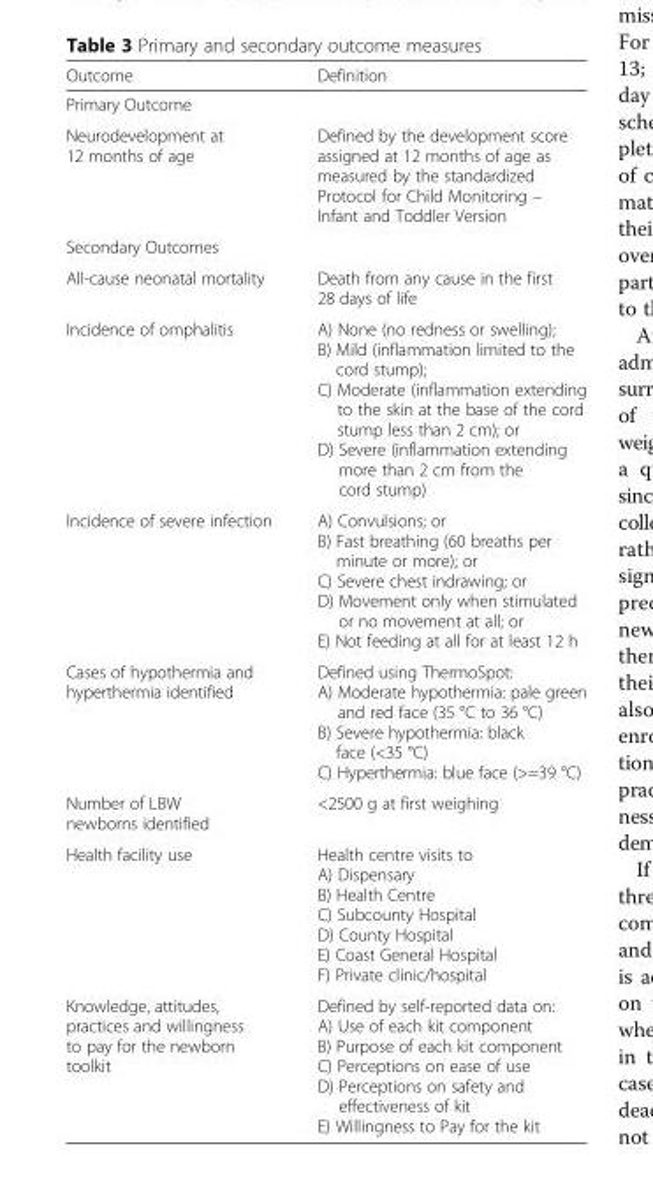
<table><thead><tr><td>Outcome</td><td>Definition</td></tr></thead><tbody><tr><td colspan="2">Primary Outcome</td></tr><tr><td>Neurodevelopment at 12 months of age</td><td>Defined by the development score assigned at 12 months of age as measured by the standardized Protocol for Child Monitoring – Infant and Toddler Version</td></tr><tr><td colspan="2">Secondary Outcomes</td></tr><tr><td>All-cause neonatal mortality</td><td>Death from any cause in the first 28 days of life</td></tr><tr><td>Incidence of omphalitis</td><td>A) None (no redness or swelling); B) Mild (inflammation limited to the cord stump); C) Moderate (inflammation extending to the skin at the base of the cord stump less than 2 cm); or D) Severe (inflammation extending more than 2 cm from the cord stump)</td></tr><tr><td>Incidence of severe infection</td><td>A) Convulsions; or B) Fast breathing (60 breaths per minute or more); or C) Severe chest indrawing; or D) Movement only when stimulated or no movement at all; or E) Not feeding at all for at least 12 h</td></tr><tr><td>Cases of hypothermia and hyperthermia identified</td><td>Defined using ThermoSpot: A) Moderate hypothermia: pale green and red face (35 °C to 36 °C) B) Severe hypothermia: black face (&lt;35 °C) C) Hyperthermia: blue face (&gt;=39 °C)</td></tr><tr><td>Number of LBW newborns identified</td><td>&lt;2500 g at first weighing</td></tr><tr><td>Health facility use</td><td>Health centre visits to A) Dispensary B) Health Centre C) Subcounty Hospital D) County Hospital E) Coast General Hospital F) Private clinic/hospital</td></tr><tr><td>Knowledge, attitudes, practices and willingness to pay for the newborn toolkit</td><td>Defined by self-reported data on: A) Use of each kit component B) Purpose of each kit component C) Perceptions on ease of use D) Perceptions on safety and effectiveness of kit E) Willingness to Pay for the kit</td></tr></tbody></table>